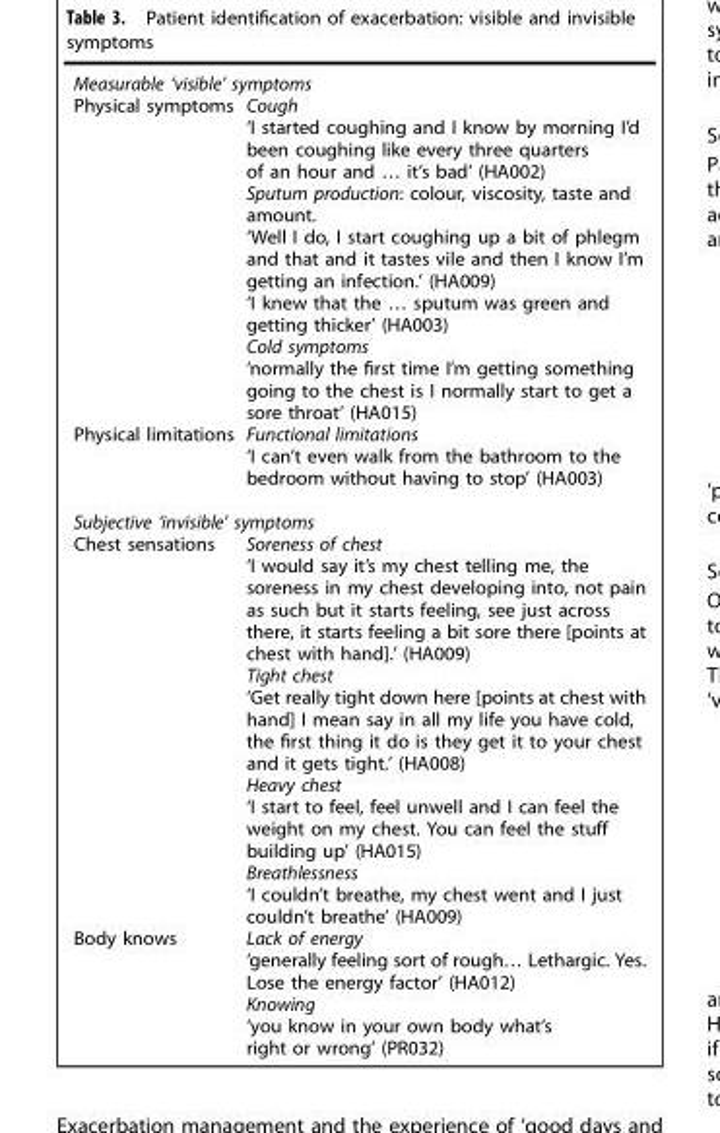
<table><tbody><tr><td colspan="2">Measurable ‘visible’ symptoms</td></tr><tr><td>Physical symptoms</td><td>Cough ‘I started coughing and I know by morning I’d been coughing like every three quarters of an hour and … it’s bad’ (HA002) Sputum production: colour, viscosity, taste and amount. ‘Well I do, I start coughing up a bit of phlegm and that and it tastes vile and then I know I’m getting an infection.’ (HA009) ‘I knew that the … sputum was green and getting thicker’ (HA003) Cold symptoms ‘normally the first time I’m getting something going to the chest is I normally start to get a sore throat’ (HA015)</td></tr><tr><td>Physical limitations</td><td>Functional limitations ‘I can’t even walk from the bathroom to the bedroom without having to stop’ (HA003)</td></tr><tr><td colspan="2">Subjective ‘invisible’ symptoms</td></tr><tr><td>Chest sensations</td><td>Soreness of chest ‘I would say it’s my chest telling me, the soreness in my chest developing into, not pain as such but it starts feeling, see just across there, it starts feeling a bit sore there [points at chest with hand].’ (HA009) Tight chest ‘Get really tight down here [points at chest with hand] I mean say in all my life you have cold, the first thing it do is they get it to your chest and it gets tight.’ (HA008) Heavy chest ‘I start to feel, feel unwell and I can feel the weight on my chest. You can feel the stuff building up’ (HA015) Breathlessness ‘I couldn’t breathe, my chest went and I just couldn’t breathe’ (HA009)</td></tr><tr><td>Body knows</td><td>Lack of energy ‘generally feeling sort of rough… Lethargic. Yes. Lose the energy factor’ (HA012) Knowing ‘you know in your own body what’s right or wrong’ (PR032)</td></tr></tbody></table>